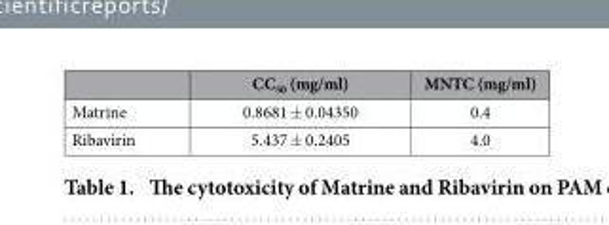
<table><thead><tr><td></td><td>CC<sub>50</sub> (mg/ml)</td><td>MNTC (mg/ml)</td></tr></thead><tbody><tr><td>Matrine</td><td>0.8681 ± 0.04350</td><td>0.4</td></tr><tr><td>Ribavirin</td><td>5.437 ± 0.2405</td><td>4.0</td></tr></tbody></table>